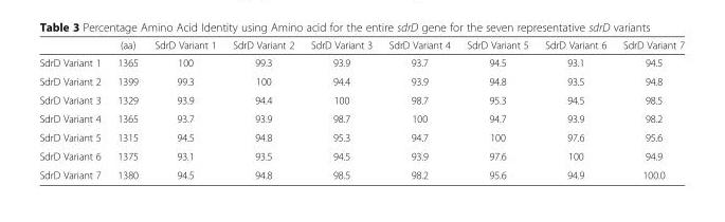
<table><thead><tr><td></td><td>(aa)</td><td>SdrD Variant 1</td><td>SdrD Variant 2</td><td>SdrD Variant 3</td><td>SdrD Variant 4</td><td>SdrD Variant 5</td><td>SdrD Variant 6</td><td>SdrD Variant 7</td></tr></thead><tbody><tr><td>SdrD Variant 1</td><td>1365</td><td>100</td><td>99.3</td><td>93.9</td><td>93.7</td><td>94.5</td><td>93.1</td><td>94.5</td></tr><tr><td>SdrD Variant 2</td><td>1399</td><td>99.3</td><td>100</td><td>94.4</td><td>93.9</td><td>94.8</td><td>93.5</td><td>94.8</td></tr><tr><td>SdrD Variant 3</td><td>1329</td><td>93.9</td><td>94.4</td><td>100</td><td>98.7</td><td>95.3</td><td>94.5</td><td>98.5</td></tr><tr><td>SdrD Variant 4</td><td>1365</td><td>93.7</td><td>93.9</td><td>98.7</td><td>100</td><td>94.7</td><td>93.9</td><td>98.2</td></tr><tr><td>SdrD Variant 5</td><td>1315</td><td>94.5</td><td>94.8</td><td>95.3</td><td>94.7</td><td>100</td><td>97.6</td><td>95.6</td></tr><tr><td>SdrD Variant 6</td><td>1375</td><td>93.1</td><td>93.5</td><td>94.5</td><td>93.9</td><td>97.6</td><td>100</td><td>94.9</td></tr><tr><td>SdrD Variant 7</td><td>1380</td><td>94.5</td><td>94.8</td><td>98.5</td><td>98.2</td><td>95.6</td><td>94.9</td><td>100.0</td></tr></tbody></table>